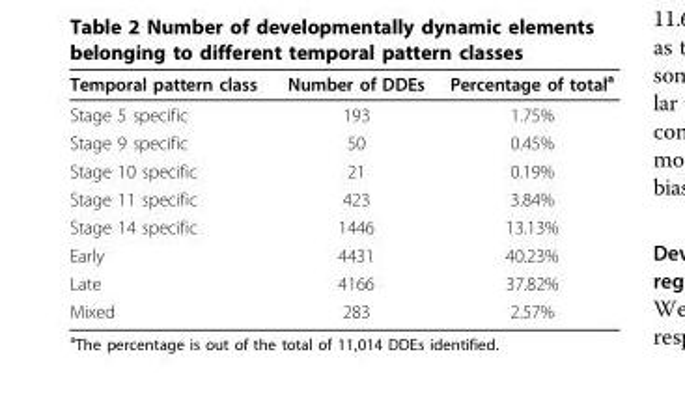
<table><thead><tr><td>Temporal pattern class</td><td>Number of DDEs</td><td>Percentage of total<sup>a</sup></td></tr></thead><tbody><tr><td>Stage 5 specific</td><td>193</td><td>1.75%</td></tr><tr><td>Stage 9 specific</td><td>50</td><td>0.45%</td></tr><tr><td>Stage 10 specific</td><td>21</td><td>0.19%</td></tr><tr><td>Stage 11 specific</td><td>423</td><td>3.84%</td></tr><tr><td>Stage 14 specific</td><td>1446</td><td>13.13%</td></tr><tr><td>Early</td><td>4431</td><td>40.23%</td></tr><tr><td>Late</td><td>4166</td><td>37.82%</td></tr><tr><td>Mixed</td><td>283</td><td>2.57%</td></tr></tbody></table>